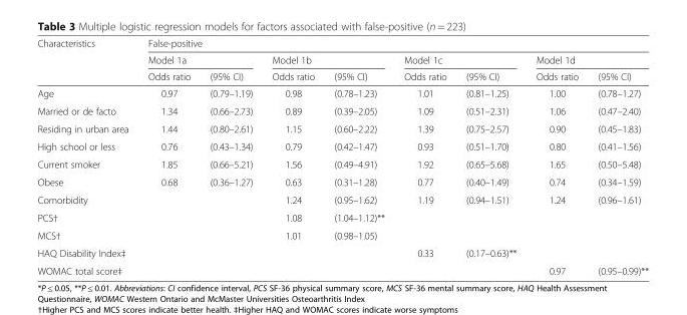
<table><thead><tr><td rowspan="3">Characteristics</td><td colspan="8">False-positive</td></tr><tr><td colspan="2">Model 1a</td><td colspan="2">Model 1b</td><td colspan="2">Model 1c</td><td colspan="2">Model 1d</td></tr><tr><td>Odds ratio</td><td>(95% CI)</td><td>Odds ratio</td><td>(95% CI)</td><td>Odds ratio</td><td>(95% CI)</td><td>Odds ratio</td><td>(95% CI)</td></tr></thead><tbody><tr><td>Age</td><td>0.97</td><td>(0.79–1.19)</td><td>0.98</td><td>(0.78–1.23)</td><td>1.01</td><td>(0.81–1.25)</td><td>1.00</td><td>(0.78–1.27)</td></tr><tr><td>Married or de facto</td><td>1.34</td><td>(0.66–2.73)</td><td>0.89</td><td>(0.39–2.05)</td><td>1.09</td><td>(0.51–2.31)</td><td>1.06</td><td>(0.47–2.40)</td></tr><tr><td>Residing in urban area</td><td>1.44</td><td>(0.80–2.61)</td><td>1.15</td><td>(0.60–2.22)</td><td>1.39</td><td>(0.75–2.57)</td><td>0.90</td><td>(0.45–1.83)</td></tr><tr><td>High school or less</td><td>0.76</td><td>(0.43–1.34)</td><td>0.79</td><td>(0.42–1.47)</td><td>0.93</td><td>(0.51–1.70)</td><td>0.80</td><td>(0.41–1.56)</td></tr><tr><td>Current smoker</td><td>1.85</td><td>(0.66–5.21)</td><td>1.56</td><td>(0.49–4.91)</td><td>1.92</td><td>(0.65–5.68)</td><td>1.65</td><td>(0.50–5.48)</td></tr><tr><td>Obese</td><td>0.68</td><td>(0.36–1.27)</td><td>0.63</td><td>(0.31–1.28)</td><td>0.77</td><td>(0.40–1.49)</td><td>0.74</td><td>(0.34–1.59)</td></tr><tr><td>Comorbidity</td><td></td><td></td><td>1.24</td><td>(0.95–1.62)</td><td>1.19</td><td>(0.94–1.51)</td><td>1.24</td><td>(0.96–1.61)</td></tr><tr><td>PCS†</td><td></td><td></td><td>1.08</td><td>(1.04–1.12)**</td><td></td><td></td><td></td><td></td></tr><tr><td>MCS†</td><td></td><td></td><td>1.01</td><td>(0.98–1.05)</td><td></td><td></td><td></td><td></td></tr><tr><td>HAQ Disability Index‡</td><td></td><td></td><td></td><td></td><td>0.33</td><td>(0.17–0.63)**</td><td></td><td></td></tr><tr><td>WOMAC total score‡</td><td></td><td></td><td></td><td></td><td></td><td></td><td>0.97</td><td>(0.95–0.99)**</td></tr></tbody></table>